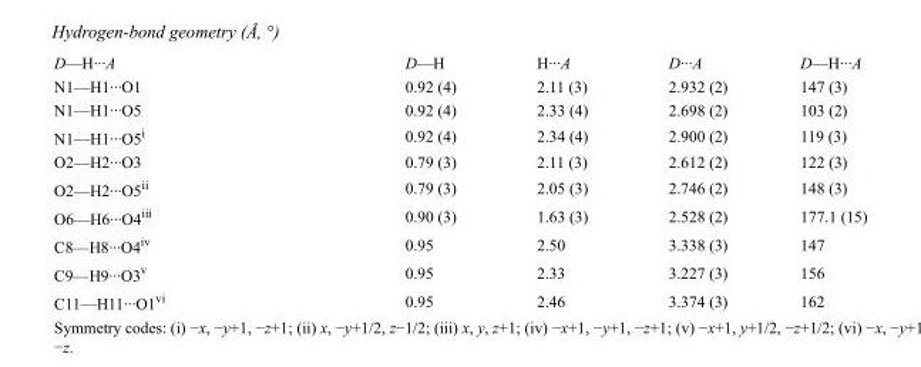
<table><tbody><tr><td>D—H···A</td><td>D—H</td><td>H···A</td><td>D···A</td><td>D—H···A</td></tr><tr><td>N1—H1···O1</td><td>0.92 (4)</td><td>2.11 (3)</td><td>2.932 (2)</td><td>147 (3)</td></tr><tr><td>N1—H1···O5</td><td>0.92 (4)</td><td>2.33 (4)</td><td>2.698 (2)</td><td>103 (2)</td></tr><tr><td>N1—H1···O5<sup>i</sup></td><td>0.92 (4)</td><td>2.34 (4)</td><td>2.900 (2)</td><td>119 (3)</td></tr><tr><td>O2—H2···O3</td><td>0.79 (3)</td><td>2.11 (3)</td><td>2.612 (2)</td><td>122 (3)</td></tr><tr><td>O2—H2···O5<sup>ii</sup></td><td>0.79 (3)</td><td>2.05 (3)</td><td>2.746 (2)</td><td>148 (3)</td></tr><tr><td>O6—H6···O4<sup>iii</sup></td><td>0.90 (3)</td><td>1.63 (3)</td><td>2.528 (2)</td><td>177.1 (15)</td></tr><tr><td>C8—H8···O4<sup>iv</sup></td><td>0.95</td><td>2.50</td><td>3.338 (3)</td><td>147</td></tr><tr><td>C9—H9···O3<sup>v</sup></td><td>0.95</td><td>2.33</td><td>3.227 (3)</td><td>156</td></tr><tr><td>C11—H11···O1<sup>vi</sup></td><td>0.95</td><td>2.46</td><td>3.374 (3)</td><td>162</td></tr></tbody></table>